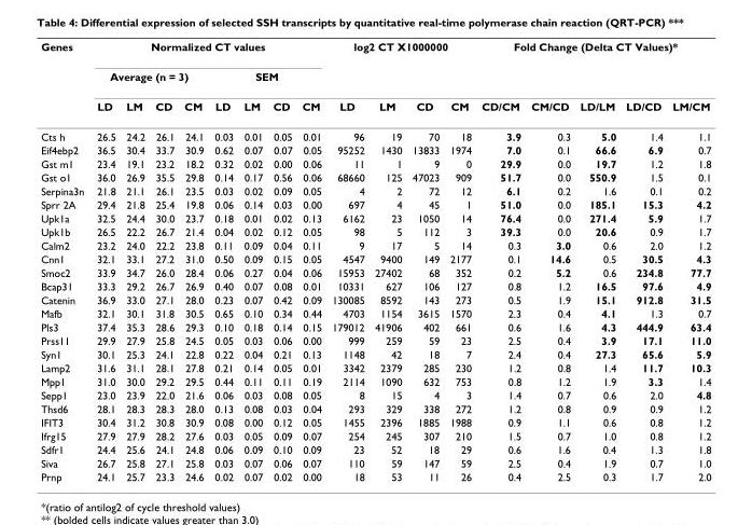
<table><thead><tr><td rowspan="3">Genes</td><td colspan="8">Normalized CT values</td><td colspan="4">log2 CT X1000000</td><td colspan="5">Fold Change (Delta CT Values)*</td></tr><tr><td colspan="4">Average (n = 3)</td><td colspan="4">SEM</td><td rowspan="2">LD</td><td rowspan="2">LM</td><td rowspan="2">CD</td><td rowspan="2">CM</td><td rowspan="2">CD/CM</td><td rowspan="2">CM/CD</td><td rowspan="2">LD/LM</td><td rowspan="2">LD/CD</td><td rowspan="2">LM/CM</td></tr><tr><td>LD</td><td>LM</td><td>CD</td><td>CM</td><td>LD</td><td>LM</td><td>CD</td><td>CM</td></tr></thead><tbody><tr><td>Cts h</td><td>26.5</td><td>24.2</td><td>26.1</td><td>24.1</td><td>0.03</td><td>0.01</td><td>0.05</td><td>0.01</td><td>96</td><td>19</td><td>70</td><td>18</td><td>3.9</td><td>0.3</td><td>5.0</td><td>1.4</td><td>1.1</td></tr><tr><td>Eif4ebp2</td><td>36.5</td><td>30.4</td><td>33.7</td><td>30.9</td><td>0.62</td><td>0.07</td><td>0.07</td><td>0.05</td><td>95252</td><td>1430</td><td>13833</td><td>1974</td><td>7.0</td><td>0.1</td><td>66.6</td><td>6.9</td><td>0.7</td></tr><tr><td>Gst m1</td><td>23.4</td><td>19.1</td><td>23.2</td><td>18.2</td><td>0.32</td><td>0.02</td><td>0.00</td><td>0.06</td><td>11</td><td>1</td><td>9</td><td>0</td><td>29.9</td><td>0.0</td><td>19.7</td><td>1.2</td><td>1.8</td></tr><tr><td>Gst o1</td><td>36.0</td><td>26.9</td><td>35.5</td><td>29.8</td><td>0.14</td><td>0.17</td><td>0.56</td><td>0.06</td><td>68660</td><td>125</td><td>47023</td><td>909</td><td>51.7</td><td>0.0</td><td>550.9</td><td>1.5</td><td>0.1</td></tr><tr><td>Serpina3n</td><td>21.8</td><td>21.1</td><td>26.1</td><td>23.5</td><td>0.03</td><td>0.02</td><td>0.09</td><td>0.05</td><td>4</td><td>2</td><td>72</td><td>12</td><td>6.1</td><td>0.2</td><td>1.6</td><td>0.1</td><td>0.2</td></tr><tr><td>Sprr 2A</td><td>29.4</td><td>21.8</td><td>25.4</td><td>19.8</td><td>0.06</td><td>0.14</td><td>0.03</td><td>0.00</td><td>697</td><td>4</td><td>45</td><td>1</td><td>51.0</td><td>0.0</td><td>185.1</td><td>15.3</td><td>4.2</td></tr><tr><td>Upk1a</td><td>32.5</td><td>24.4</td><td>30.0</td><td>23.7</td><td>0.18</td><td>0.01</td><td>0.02</td><td>0.13</td><td>6162</td><td>23</td><td>1050</td><td>14</td><td>76.4</td><td>0.0</td><td>271.4</td><td>5.9</td><td>1.7</td></tr><tr><td>Upk1b</td><td>26.5</td><td>22.2</td><td>26.7</td><td>21.4</td><td>0.04</td><td>0.02</td><td>0.12</td><td>0.05</td><td>98</td><td>5</td><td>112</td><td>3</td><td>39.3</td><td>0.0</td><td>20.6</td><td>0.9</td><td>1.7</td></tr><tr><td>Calm2</td><td>23.2</td><td>24.0</td><td>22.2</td><td>23.8</td><td>0.11</td><td>0.09</td><td>0.04</td><td>0.11</td><td>9</td><td>17</td><td>5</td><td>14</td><td>0.3</td><td>3.0</td><td>0.6</td><td>2.0</td><td>1.2</td></tr><tr><td>Cnn1</td><td>32.1</td><td>33.1</td><td>27.2</td><td>31.0</td><td>0.50</td><td>0.09</td><td>0.15</td><td>0.05</td><td>4547</td><td>9400</td><td>149</td><td>2177</td><td>0.1</td><td>14.6</td><td>0.5</td><td>30.5</td><td>4.3</td></tr><tr><td>Smoc2</td><td>33.9</td><td>34.7</td><td>26.0</td><td>28.4</td><td>0.06</td><td>0.27</td><td>0.04</td><td>0.06</td><td>15953</td><td>27402</td><td>68</td><td>352</td><td>0.2</td><td>5.2</td><td>0.6</td><td>234.8</td><td>77.7</td></tr><tr><td>Bcap31</td><td>33.3</td><td>29.2</td><td>26.7</td><td>26.9</td><td>0.40</td><td>0.07</td><td>0.08</td><td>0.01</td><td>10331</td><td>627</td><td>106</td><td>127</td><td>0.8</td><td>1.2</td><td>16.5</td><td>97.6</td><td>4.9</td></tr><tr><td>Catenin</td><td>36.9</td><td>33.0</td><td>27.1</td><td>28.0</td><td>0.23</td><td>0.07</td><td>0.42</td><td>0.09</td><td>130085</td><td>8592</td><td>143</td><td>273</td><td>0.5</td><td>1.9</td><td>15.1</td><td>912.8</td><td>31.5</td></tr><tr><td>Mafb</td><td>32.1</td><td>30.1</td><td>31.8</td><td>30.5</td><td>0.65</td><td>0.10</td><td>0.34</td><td>0.44</td><td>4703</td><td>1154</td><td>3615</td><td>1570</td><td>2.3</td><td>0.4</td><td>4.1</td><td>1.3</td><td>0.7</td></tr><tr><td>Pls3</td><td>37.4</td><td>35.3</td><td>28.6</td><td>29.3</td><td>0.10</td><td>0.18</td><td>0.14</td><td>0.15</td><td>179012</td><td>41906</td><td>402</td><td>661</td><td>0.6</td><td>1.6</td><td>4.3</td><td>444.9</td><td>63.4</td></tr><tr><td>Prss11</td><td>29.9</td><td>27.9</td><td>25.8</td><td>24.5</td><td>0.05</td><td>0.03</td><td>0.06</td><td>0.00</td><td>999</td><td>259</td><td>59</td><td>23</td><td>2.5</td><td>0.4</td><td>3.9</td><td>17.1</td><td>11.0</td></tr><tr><td>Syn1</td><td>30.1</td><td>25.3</td><td>24.1</td><td>22.8</td><td>0.22</td><td>0.04</td><td>0.21</td><td>0.13</td><td>1148</td><td>42</td><td>18</td><td>7</td><td>2.4</td><td>0.4</td><td>27.3</td><td>65.6</td><td>5.9</td></tr><tr><td>Lamp2</td><td>31.6</td><td>31.1</td><td>28.1</td><td>27.8</td><td>0.21</td><td>0.14</td><td>0.05</td><td>0.01</td><td>3342</td><td>2379</td><td>285</td><td>230</td><td>1.2</td><td>0.8</td><td>1.4</td><td>11.7</td><td>10.3</td></tr><tr><td>Mpp1</td><td>31.0</td><td>30.0</td><td>29.2</td><td>29.5</td><td>0.44</td><td>0.11</td><td>0.11</td><td>0.19</td><td>2114</td><td>1090</td><td>632</td><td>753</td><td>0.8</td><td>1.2</td><td>1.9</td><td>3.3</td><td>1.4</td></tr><tr><td>Sepp1</td><td>23.0</td><td>23.9</td><td>22.0</td><td>21.6</td><td>0.06</td><td>0.03</td><td>0.08</td><td>0.05</td><td>8</td><td>15</td><td>4</td><td>3</td><td>1.4</td><td>0.7</td><td>0.6</td><td>2.0</td><td>4.8</td></tr><tr><td>Thsd6</td><td>28.1</td><td>28.3</td><td>28.3</td><td>28.0</td><td>0.13</td><td>0.08</td><td>0.03</td><td>0.04</td><td>293</td><td>329</td><td>338</td><td>272</td><td>1.2</td><td>0.8</td><td>0.9</td><td>0.9</td><td>1.2</td></tr><tr><td>IFIT3</td><td>30.4</td><td>31.2</td><td>30.8</td><td>30.9</td><td>0.08</td><td>0.00</td><td>0.12</td><td>0.05</td><td>1455</td><td>2396</td><td>1885</td><td>1988</td><td>0.9</td><td>1.1</td><td>0.6</td><td>0.8</td><td>1.2</td></tr><tr><td>Ifrg15</td><td>27.9</td><td>27.9</td><td>28.2</td><td>27.6</td><td>0.03</td><td>0.05</td><td>0.09</td><td>0.07</td><td>254</td><td>245</td><td>307</td><td>210</td><td>1.5</td><td>0.7</td><td>1.0</td><td>0.8</td><td>1.2</td></tr><tr><td>Sdfr1</td><td>24.4</td><td>25.6</td><td>24.1</td><td>24.8</td><td>0.06</td><td>0.09</td><td>0.10</td><td>0.09</td><td>23</td><td>52</td><td>18</td><td>29</td><td>0.6</td><td>1.6</td><td>0.4</td><td>1.3</td><td>1.8</td></tr><tr><td>Siva</td><td>26.7</td><td>25.8</td><td>27.1</td><td>25.8</td><td>0.03</td><td>0.07</td><td>0.06</td><td>0.07</td><td>110</td><td>59</td><td>147</td><td>59</td><td>2.5</td><td>0.4</td><td>1.9</td><td>0.7</td><td>1.0</td></tr><tr><td>Prnp</td><td>24.1</td><td>25.7</td><td>23.3</td><td>24.6</td><td>0.02</td><td>0.07</td><td>0.02</td><td>0.00</td><td>18</td><td>53</td><td>11</td><td>26</td><td>0.4</td><td>2.5</td><td>0.3</td><td>1.7</td><td>2.0</td></tr></tbody></table>